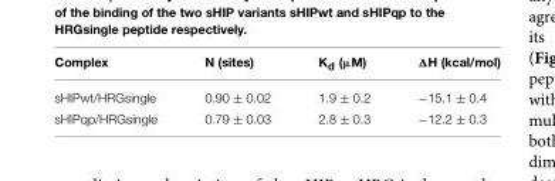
<table><thead><tr><td>Complex</td><td>N (sites)</td><td>K<sub>d</sub> (µM)</td><td>ΔH (kcal/mol)</td></tr></thead><tbody><tr><td>sHIPwt/HRGsingle</td><td>0.90 ± 0.02</td><td>1.9 ± 0.2</td><td>−15.1 ± 0.4</td></tr><tr><td>sHIPqp/HRGsingle</td><td>0.79 ± 0.03</td><td>2.8 ± 0.3</td><td>−12.2 ± 0.3</td></tr></tbody></table>